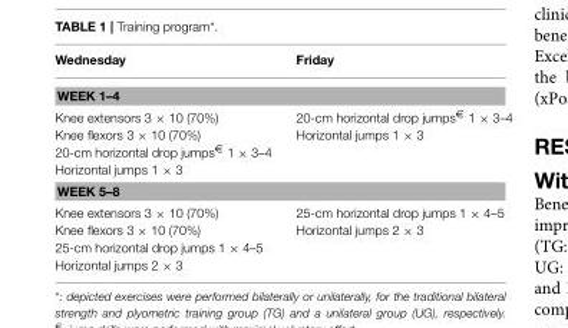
<table><thead><tr><td>Wednesday</td><td>Friday</td></tr></thead><tbody><tr><td colspan="2">WEEK 1–4</td></tr><tr><td>Knee extensors 3 × 10 (70%) Knee flexors 3 × 10 (70%) 20-cm horizontal drop jumps<sup>€</sup> 1 × 3–4 Horizontal jumps 1 × 3</td><td>20-cm horizontal drop jumps<sup>€</sup> 1 × 3–4 Horizontal jumps 1 × 3</td></tr><tr><td colspan="2">WEEK 5–8</td></tr><tr><td>Knee extensors 3 × 10 (70%) Knee flexors 3 × 10 (70%) 25-cm horizontal drop jumps 1 × 4–5 Horizontal jumps 2 × 3</td><td>25-cm horizontal drop jumps 1 × 4–5 Horizontal jumps 2 × 3</td></tr></tbody></table>